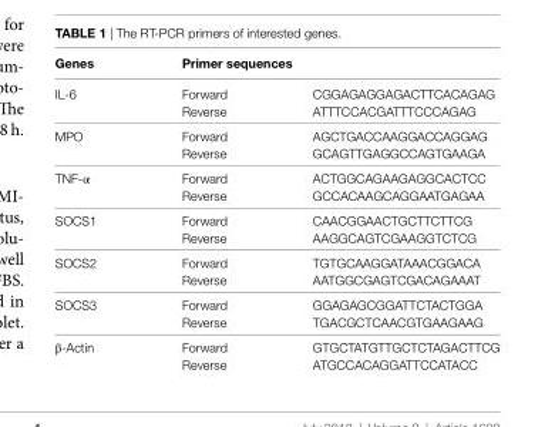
<table><thead><tr><td rowspan="2">genes IL-6</td><td colspan="2">Primer sequences</td></tr><tr><td>Forward Reverse</td><td>CGGAGAGGAGACTTCACAGAG ATTTCCACGATTTCCCAGAG</td></tr></thead><tbody><tr><td>MPO</td><td>Forward Reverse</td><td>AGCTGACCAAGGACCAGGAG GCAGTTGAGGCCAGTGAAGA</td></tr><tr><td>TNF-α</td><td>Forward Reverse</td><td>ACTGGCAGAAGAGGCACTCC GCCACAAGCAGGAATGAGAA</td></tr><tr><td>SOCS1</td><td>Forward Reverse</td><td>CAACGGAACTGCTTCTTCG AAGGCAGTCGAAGGTCTCG</td></tr><tr><td>SOCS2</td><td>Forward Reverse</td><td>TGTGCAAGGATAAACGGACA AATGGCGAGTCGACAGAAAT</td></tr><tr><td>SOCS3</td><td>Forward Reverse</td><td>GGAGAGCGGATTCTACTGGA TGACGCTCAACGTGAAGAAG</td></tr><tr><td>β-Actin</td><td>Forward Reverse</td><td>GTGCTATGTTGCTCTAGACTTCG ATGCCACAGGATTCCATACC</td></tr></tbody></table>